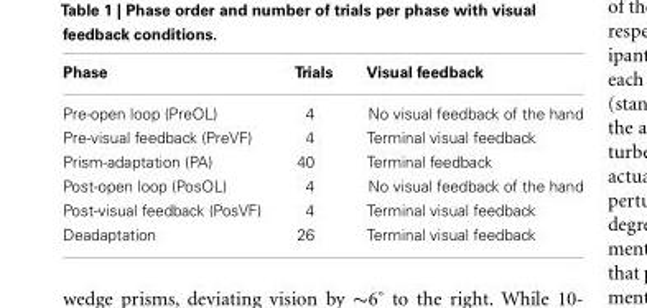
<table><thead><tr><td>Phase</td><td>Trials</td><td>Visual feedback</td></tr></thead><tbody><tr><td>Pre-open loop (PreOL)</td><td>4</td><td>No visual feedback of the hand</td></tr><tr><td>Pre-visual feedback (PreVF)</td><td>4</td><td>Terminal visual feedback</td></tr><tr><td>Prism-adaptation (PA)</td><td>40</td><td>Terminal feedback</td></tr><tr><td>Post-open loop (PosOL)</td><td>4</td><td>No visual feedback of the hand</td></tr><tr><td>Post-visual feedback (PosVF)</td><td>4</td><td>Terminal visual feedback</td></tr><tr><td>Deadaptation</td><td>26</td><td>Terminal visual feedback</td></tr></tbody></table>